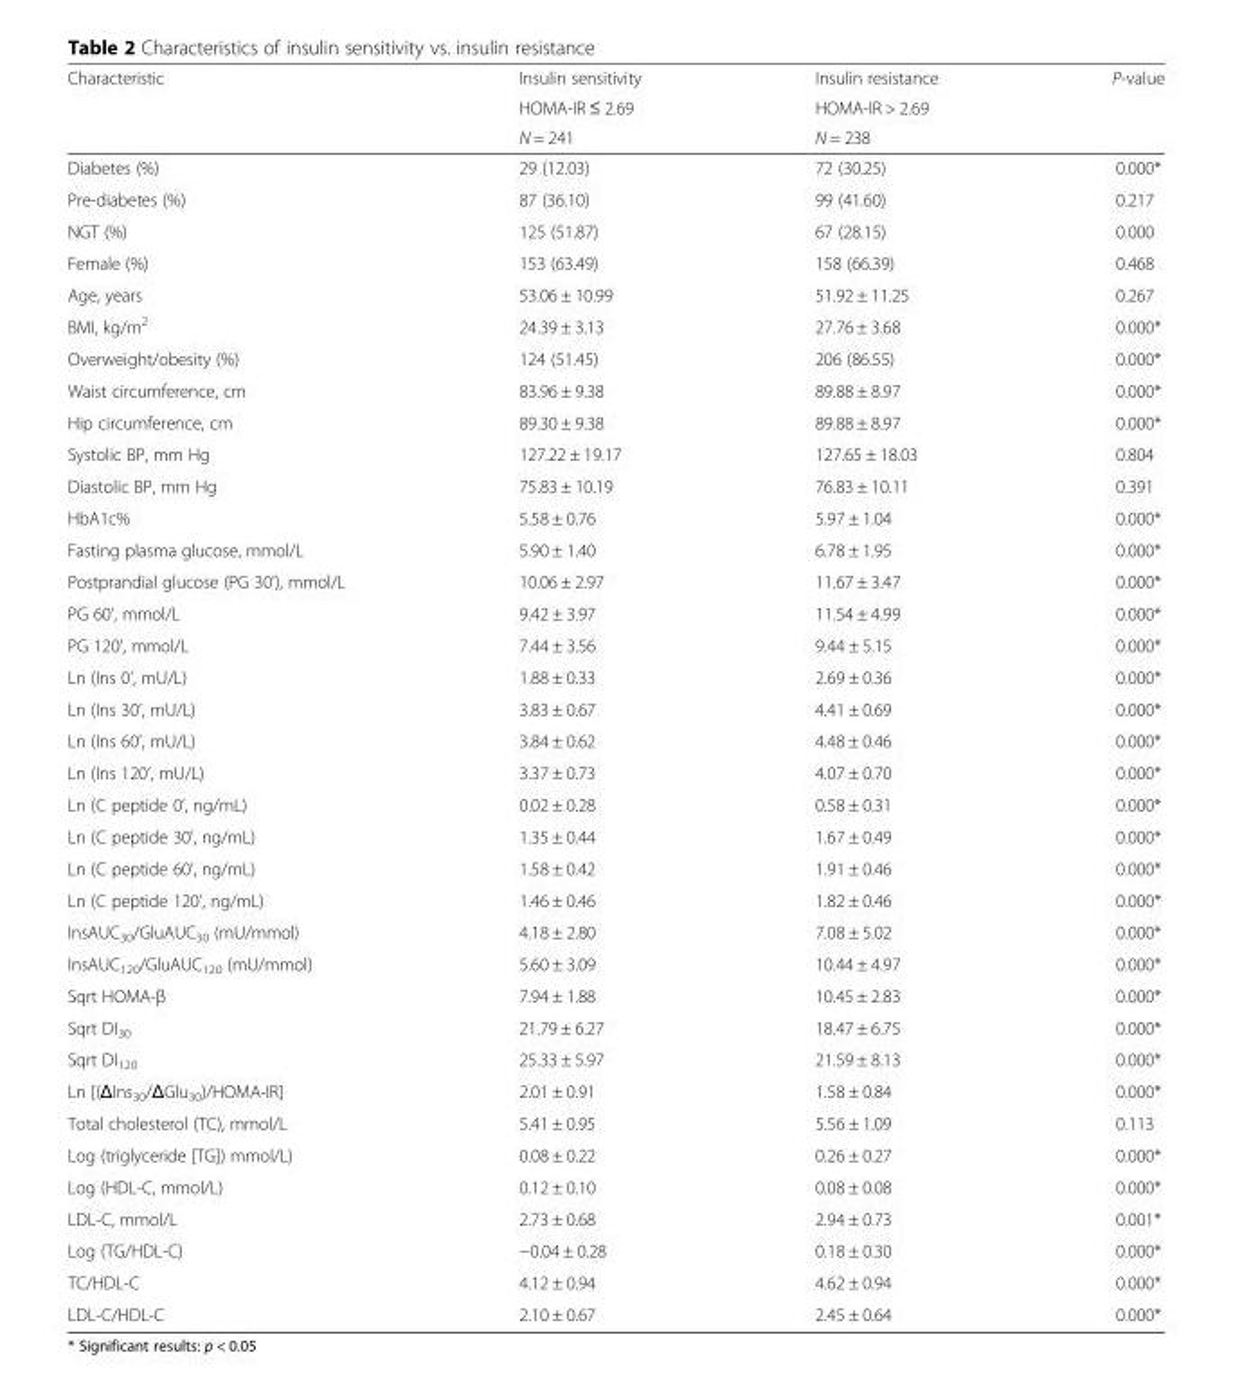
<table><thead><tr><td rowspan="3">Characteristic</td><td rowspan="3">Insulin sensitivity HOMA-IR ≤ 2.69 N = 241</td><td rowspan="3">Insulin resistance HOMA-IR &gt; 2.69 N = 238</td><td rowspan="3">P-value</td></tr><tr></tr><tr></tr></thead><tbody><tr><td>Diabetes (%)</td><td>29 (12.03)</td><td>72 (30.25)</td><td>0.000*</td></tr><tr><td>Pre-diabetes (%)</td><td>87 (36.10)</td><td>99 (41.60)</td><td>0.217</td></tr><tr><td>NGT (%)</td><td>125 (51.87)</td><td>67 (28.15)</td><td>0.000</td></tr><tr><td>Female (%)</td><td>153 (63.49)</td><td>158 (66.39)</td><td>0.468</td></tr><tr><td>Age, years</td><td>53.06 ± 10.99</td><td>51.92 ± 11.25</td><td>0.267</td></tr><tr><td>BMI, kg/m<sup>2</sup></td><td>24.39 ± 3.13</td><td>27.76 ± 3.68</td><td>0.000*</td></tr><tr><td>Overweight/obesity (%)</td><td>124 (51.45)</td><td>206 (86.55)</td><td>0.000*</td></tr><tr><td>Waist circumference, cm</td><td>83.96 ± 9.38</td><td>89.88 ± 8.97</td><td>0.000*</td></tr><tr><td>Hip circumference, cm</td><td>89.30 ± 9.38</td><td>89.88 ± 8.97</td><td>0.000*</td></tr><tr><td>Systolic BP, mm Hg</td><td>127.22 ± 19.17</td><td>127.65 ± 18.03</td><td>0.804</td></tr><tr><td>Diastolic BP, mm Hg</td><td>75.83 ± 10.19</td><td>76.83 ± 10.11</td><td>0.391</td></tr><tr><td>HbA1c%</td><td>5.58 ± 0.76</td><td>5.97 ± 1.04</td><td>0.000*</td></tr><tr><td>Fasting plasma glucose, mmol/L</td><td>5.90 ± 1.40</td><td>6.78 ± 1.95</td><td>0.000*</td></tr><tr><td>Postprandial glucose (PG 30’), mmol/L</td><td>10.06 ± 2.97</td><td>11.67 ± 3.47</td><td>0.000*</td></tr><tr><td>PG 60’, mmol/L</td><td>9.42 ± 3.97</td><td>11.54 ± 4.99</td><td>0.000*</td></tr><tr><td>PG 120’, mmol/L</td><td>7.44 ± 3.56</td><td>9.44 ± 5.15</td><td>0.000*</td></tr><tr><td>Ln (Ins 0’, mU/L)</td><td>1.88 ± 0.33</td><td>2.69 ± 0.36</td><td>0.000*</td></tr><tr><td>Ln (Ins 30’, mU/L)</td><td>3.83 ± 0.67</td><td>4.41 ± 0.69</td><td>0.000*</td></tr><tr><td>Ln (Ins 60’, mU/L)</td><td>3.84 ± 0.62</td><td>4.48 ± 0.46</td><td>0.000*</td></tr><tr><td>Ln (Ins 120’, mU/L)</td><td>3.37 ± 0.73</td><td>4.07 ± 0.70</td><td>0.000*</td></tr><tr><td>Ln (C peptide 0’, ng/mL)</td><td>0.02 ± 0.28</td><td>0.58 ± 0.31</td><td>0.000*</td></tr><tr><td>Ln (C peptide 30’, ng/mL)</td><td>1.35 ± 0.44</td><td>1.67 ± 0.49</td><td>0.000*</td></tr><tr><td>Ln (C peptide 60’, ng/mL)</td><td>1.58 ± 0.42</td><td>1.91 ± 0.46</td><td>0.000*</td></tr><tr><td>Ln (C peptide 120’, ng/mL)</td><td>1.46 ± 0.46</td><td>1.82 ± 0.46</td><td>0.000*</td></tr><tr><td>InsAUC<sub>30</sub>/GluAUC<sub>30</sub> (mU/mmol)</td><td>4.18 ± 2.80</td><td>7.08 ± 5.02</td><td>0.000*</td></tr><tr><td>InsAUC<sub>120</sub>/GluAUC<sub>120</sub> (mU/mmol)</td><td>5.60 ± 3.09</td><td>10.44 ± 4.97</td><td>0.000*</td></tr><tr><td>Sqrt HOMA-β</td><td>7.94 ± 1.88</td><td>10.45 ± 2.83</td><td>0.000*</td></tr><tr><td>Sqrt DI<sub>30</sub></td><td>21.79 ± 6.27</td><td>18.47 ± 6.75</td><td>0.000*</td></tr><tr><td>Sqrt DI<sub>120</sub></td><td>25.33 ± 5.97</td><td>21.59 ± 8.13</td><td>0.000*</td></tr><tr><td>Ln [(ΔIns<sub>30</sub>/ΔGlu<sub>30</sub>)/HOMA-IR]</td><td>2.01 ± 0.91</td><td>1.58 ± 0.84</td><td>0.000*</td></tr><tr><td>Total cholesterol (TC), mmol/L</td><td>5.41 ± 0.95</td><td>5.56 ± 1.09</td><td>0.113</td></tr><tr><td>Log (triglyceride [TG]) mmol/L)</td><td>0.08 ± 0.22</td><td>0.26 ± 0.27</td><td>0.000*</td></tr><tr><td>Log (HDL-C, mmol/L)</td><td>0.12 ± 0.10</td><td>0.08 ± 0.08</td><td>0.000*</td></tr><tr><td>LDL-C, mmol/L</td><td>2.73 ± 0.68</td><td>2.94 ± 0.73</td><td>0.001*</td></tr><tr><td>Log (TG/HDL-C)</td><td>−0.04 ± 0.28</td><td>0.18 ± 0.30</td><td>0.000*</td></tr><tr><td>TC/HDL-C</td><td>4.12 ± 0.94</td><td>4.62 ± 0.94</td><td>0.000*</td></tr><tr><td>LDL-C/HDL-C</td><td>2.10 ± 0.67</td><td>2.45 ± 0.64</td><td>0.000*</td></tr></tbody></table>